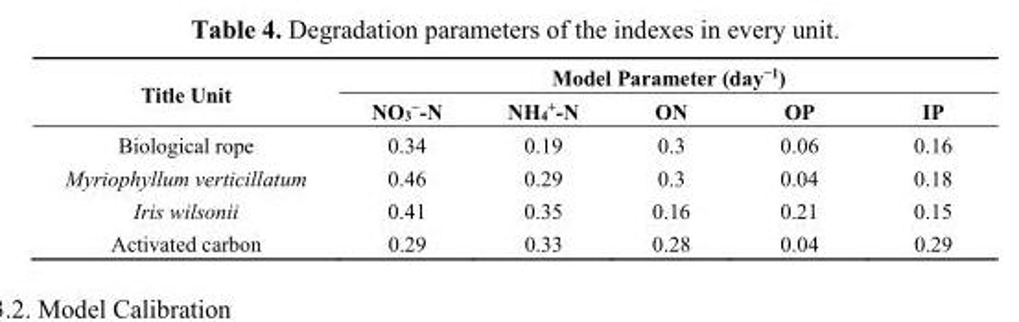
<table><thead><tr><td rowspan="2">Title Unit</td><td colspan="5">Model Parameter (day<sup>−1</sup>)</td></tr><tr><td>NO<sub>3</sub><sup>−</sup>-N</td><td>NH<sub>4</sub><sup>+</sup>-N</td><td>ON</td><td>OP</td><td>IP</td></tr></thead><tbody><tr><td>Biological rope</td><td>0.34</td><td>0.19</td><td>0.3</td><td>0.06</td><td>0.16</td></tr><tr><td>Myriophyllum verticillatum</td><td>0.46</td><td>0.29</td><td>0.3</td><td>0.04</td><td>0.18</td></tr><tr><td>Iris wilsonii</td><td>0.41</td><td>0.35</td><td>0.16</td><td>0.21</td><td>0.15</td></tr><tr><td>Activated carbon</td><td>0.29</td><td>0.33</td><td>0.28</td><td>0.04</td><td>0.29</td></tr></tbody></table>